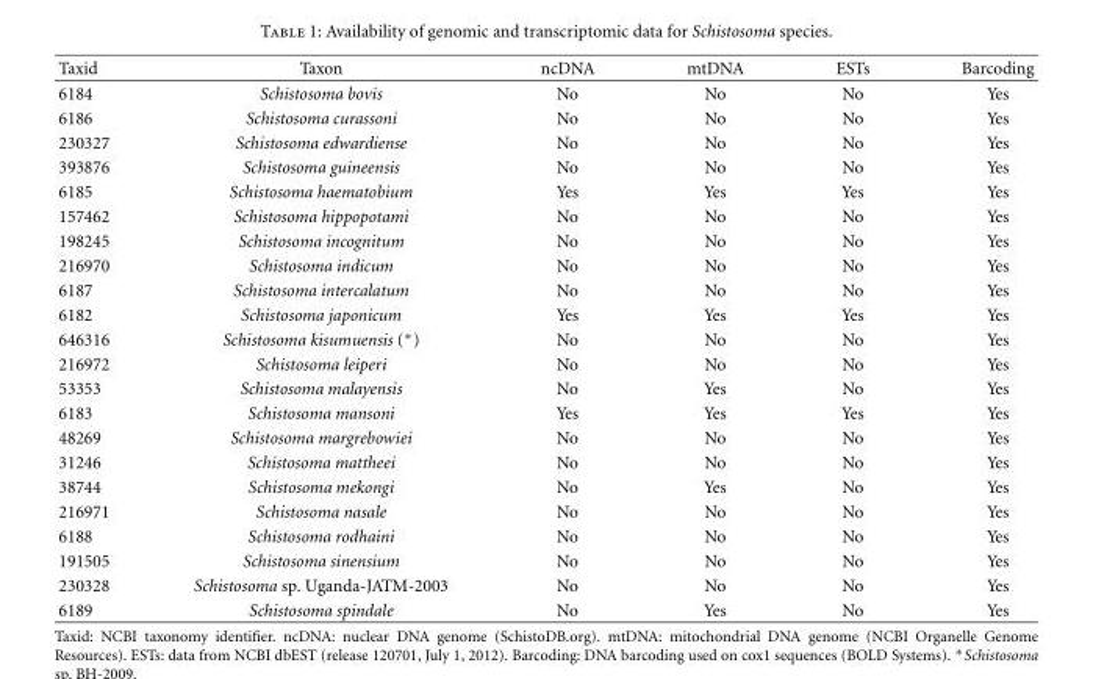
<table><thead><tr><td>Taxid</td><td>Taxon</td><td>ncDNA</td><td>mtDNA</td><td>ESTs</td><td>Barcoding</td></tr></thead><tbody><tr><td>6184</td><td>Schistosoma bovis</td><td>No</td><td>No</td><td>No</td><td>Yes</td></tr><tr><td>6186</td><td>Schistosoma curassoni</td><td>No</td><td>No</td><td>No</td><td>Yes</td></tr><tr><td>230327</td><td>Schistosoma edwardiense</td><td>No</td><td>No</td><td>No</td><td>Yes</td></tr><tr><td>393876</td><td>Schistosoma guineensis</td><td>No</td><td>No</td><td>No</td><td>Yes</td></tr><tr><td>6185</td><td>Schistosoma haematobium</td><td>Yes</td><td>Yes</td><td>Yes</td><td>Yes</td></tr><tr><td>157462</td><td>Schistosoma hippopotami</td><td>No</td><td>No</td><td>No</td><td>Yes</td></tr><tr><td>198245</td><td>Schistosoma incognitum</td><td>No</td><td>No</td><td>No</td><td>Yes</td></tr><tr><td>216970</td><td>Schistosoma indicum</td><td>No</td><td>No</td><td>No</td><td>Yes</td></tr><tr><td>6187</td><td>Schistosoma intercalatum</td><td>No</td><td>No</td><td>No</td><td>Yes</td></tr><tr><td>6182</td><td>Schistosoma japonicum</td><td>Yes</td><td>Yes</td><td>Yes</td><td>Yes</td></tr><tr><td>646316</td><td>Schistosoma kisumuensis (∗)</td><td>No</td><td>No</td><td>No</td><td>Yes</td></tr><tr><td>216972</td><td>Schistosoma leiperi</td><td>No</td><td>No</td><td>No</td><td>Yes</td></tr><tr><td>53353</td><td>Schistosoma malayensis</td><td>No</td><td>Yes</td><td>No</td><td>Yes</td></tr><tr><td>6183</td><td>Schistosoma mansoni</td><td>Yes</td><td>Yes</td><td>Yes</td><td>Yes</td></tr><tr><td>48269</td><td>Schistosoma margrebowiei</td><td>No</td><td>No</td><td>No</td><td>Yes</td></tr><tr><td>31246</td><td>Schistosoma mattheei</td><td>No</td><td>No</td><td>No</td><td>Yes</td></tr><tr><td>38744</td><td>Schistosoma mekongi</td><td>No</td><td>Yes</td><td>No</td><td>Yes</td></tr><tr><td>216971</td><td>Schistosoma nasale</td><td>No</td><td>No</td><td>No</td><td>Yes</td></tr><tr><td>6188</td><td>Schistosoma rodhaini</td><td>No</td><td>No</td><td>No</td><td>Yes</td></tr><tr><td>191505</td><td>Schistosoma sinensium</td><td>No</td><td>No</td><td>No</td><td>Yes</td></tr><tr><td>230328</td><td>Schistosoma sp. Uganda-JATM-2003</td><td>No</td><td>No</td><td>No</td><td>Yes</td></tr><tr><td>6189</td><td>Schistosoma spindale</td><td>No</td><td>Yes</td><td>No</td><td>Yes</td></tr></tbody></table>